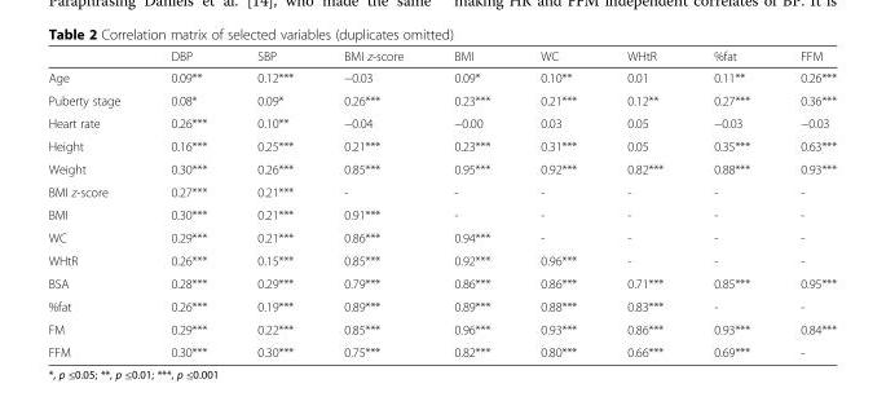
<table><thead><tr><td></td><td>DBP</td><td>SBP</td><td>BMI z-score</td><td>BMI</td><td>WC</td><td>WHtR</td><td>%fat</td><td>FFM</td></tr></thead><tbody><tr><td>Age</td><td>0.09**</td><td>0.12***</td><td>−0.03</td><td>0.09*</td><td>0.10**</td><td>0.01</td><td>0.11**</td><td>0.26***</td></tr><tr><td>Puberty stage</td><td>0.08*</td><td>0.09*</td><td>0.26***</td><td>0.23***</td><td>0.21***</td><td>0.12**</td><td>0.27***</td><td>0.36***</td></tr><tr><td>Heart rate</td><td>0.26***</td><td>0.10**</td><td>−0.04</td><td>−0.00</td><td>0.03</td><td>0.05</td><td>−0.03</td><td>−0.03</td></tr><tr><td>Height</td><td>0.16***</td><td>0.25***</td><td>0.21***</td><td>0.23***</td><td>0.31***</td><td>0.05</td><td>0.35***</td><td>0.63***</td></tr><tr><td>Weight</td><td>0.30***</td><td>0.26***</td><td>0.85***</td><td>0.95***</td><td>0.92***</td><td>0.82***</td><td>0.88***</td><td>0.93***</td></tr><tr><td>BMI z-score</td><td>0.27***</td><td>0.21***</td><td>-</td><td>-</td><td>-</td><td>-</td><td>-</td><td>-</td></tr><tr><td>BMI</td><td>0.30***</td><td>0.21***</td><td>0.91***</td><td>-</td><td>-</td><td>-</td><td>-</td><td>-</td></tr><tr><td>WC</td><td>0.29***</td><td>0.21***</td><td>0.86***</td><td>0.94***</td><td>-</td><td>-</td><td>-</td><td>-</td></tr><tr><td>WHtR</td><td>0.26***</td><td>0.15***</td><td>0.85***</td><td>0.92***</td><td>0.96***</td><td>-</td><td>-</td><td>-</td></tr><tr><td>BSA</td><td>0.28***</td><td>0.29***</td><td>0.79***</td><td>0.86***</td><td>0.86***</td><td>0.71***</td><td>0.85***</td><td>0.95***</td></tr><tr><td>%fat</td><td>0.26***</td><td>0.19***</td><td>0.89***</td><td>0.89***</td><td>0.88***</td><td>0.83***</td><td>-</td><td>-</td></tr><tr><td>FM</td><td>0.29***</td><td>0.22***</td><td>0.85***</td><td>0.96***</td><td>0.93***</td><td>0.86***</td><td>0.93***</td><td>0.84***</td></tr><tr><td>FFM</td><td>0.30***</td><td>0.30***</td><td>0.75***</td><td>0.82***</td><td>0.80***</td><td>0.66***</td><td>0.69***</td><td>-</td></tr></tbody></table>